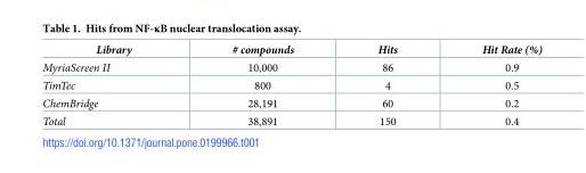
<table><thead><tr><td>Library</td><td># compounds</td><td>Hits</td><td>Hit Rate (%)</td></tr></thead><tbody><tr><td>MyriaScreen II</td><td>10,000</td><td>86</td><td>0.9</td></tr><tr><td>TimTec</td><td>800</td><td>4</td><td>0.5</td></tr><tr><td>ChemBridge</td><td>28,191</td><td>60</td><td>0.2</td></tr><tr><td>Total</td><td>38,891</td><td>150</td><td>0.4</td></tr></tbody></table>